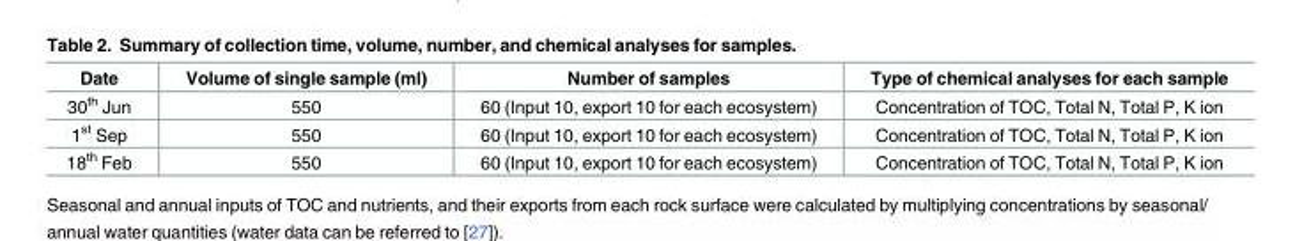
<table><thead><tr><td>Date</td><td>Volume of single sample (ml)</td><td>Number of samples</td><td>Type of chemical analyses for each sample</td></tr></thead><tbody><tr><td>30<sup>th</sup> Jun</td><td>550</td><td>60 (Input 10, export 10 for each ecosystem)</td><td>Concentration of TOC, Total N, Total P, K ion</td></tr><tr><td>1<sup>st</sup> Sep</td><td>550</td><td>60 (Input 10, export 10 for each ecosystem)</td><td>Concentration of TOC, Total N, Total P, K ion</td></tr><tr><td>18<sup>th</sup> Feb</td><td>550</td><td>60 (Input 10, export 10 for each ecosystem)</td><td>Concentration of TOC, Total N, Total P, K ion</td></tr></tbody></table>